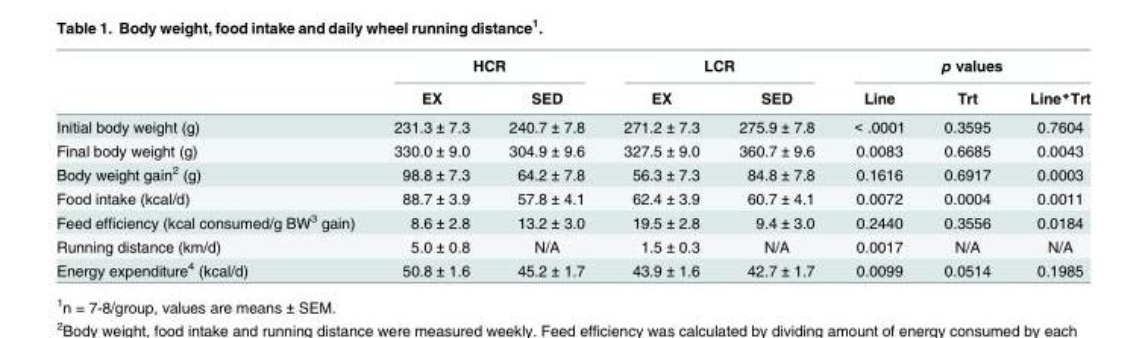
<table><thead><tr><td rowspan="2"></td><td colspan="2">HCR</td><td colspan="2">LCR</td><td colspan="3">p values</td></tr><tr><td>EX</td><td>SED</td><td>EX</td><td>SED</td><td>Line</td><td>Trt</td><td>Line*Trt</td></tr></thead><tbody><tr><td>Initial body weight (g)</td><td>231.3 ± 7.3</td><td>240.7 ± 7.8</td><td>271.2 ± 7.3</td><td>275.9 ± 7.8</td><td>&lt; .0001</td><td>0.3595</td><td>0.7604</td></tr><tr><td>Final body weight (g)</td><td>330.0 ± 9.0</td><td>304.9 ± 9.6</td><td>327.5 ± 9.0</td><td>360.7 ± 9.6</td><td>0.0083</td><td>0.6685</td><td>0.0043</td></tr><tr><td>Body weight gain<sup>2</sup> (g)</td><td>98.8 ± 7.3</td><td>64.2 ± 7.8</td><td>56.3 ± 7.3</td><td>84.8 ± 7.8</td><td>0.1616</td><td>0.6917</td><td>0.0003</td></tr><tr><td>Food intake (kcal/d)</td><td>88.7 ± 3.9</td><td>57.8 ± 4.1</td><td>62.4 ± 3.9</td><td>60.7 ± 4.1</td><td>0.0072</td><td>0.0004</td><td>0.0011</td></tr><tr><td>Feed efficiency (kcal consumed/g BW<sup>3</sup> gain)</td><td>8.6 ± 2.8</td><td>13.2 ± 3.0</td><td>19.5 ± 2.8</td><td>9.4 ± 3.0</td><td>0.2440</td><td>0.3556</td><td>0.0184</td></tr><tr><td>Running distance (km/d)</td><td>5.0 ± 0.8</td><td>N/A</td><td>1.5 ± 0.3</td><td>N/A</td><td>0.0017</td><td>N/A</td><td>N/A</td></tr><tr><td>Energy expenditure<sup>4</sup> (kcal/d)</td><td>50.8 ± 1.6</td><td>45.2 ± 1.7</td><td>43.9 ± 1.6</td><td>42.7 ± 1.7</td><td>0.0099</td><td>0.0514</td><td>0.1985</td></tr></tbody></table>